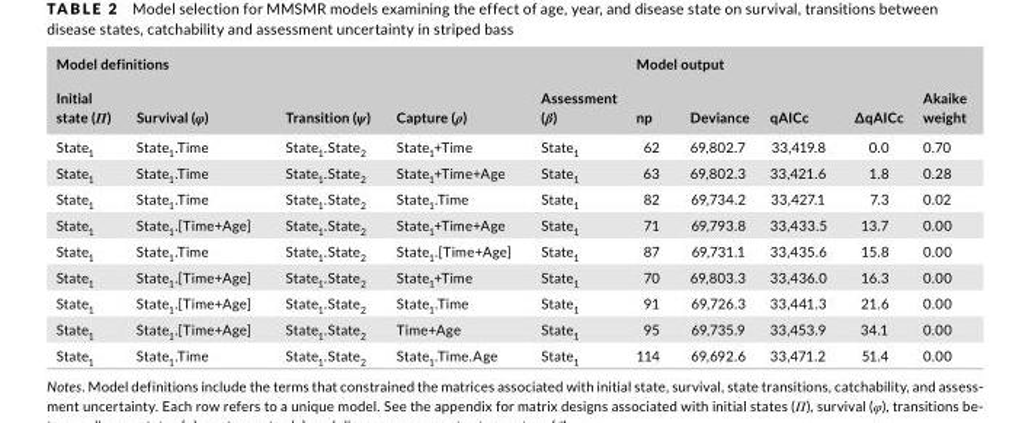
<table><thead><tr><td colspan="5">Model definitions</td><td colspan="5">Model output</td></tr><tr><td>Initial state (Π)</td><td>Survival (φ)</td><td>Transition (ψ)</td><td>Capture (ρ)</td><td>Assessment (β)</td><td>np</td><td>Deviance</td><td>qAICc</td><td>∆qAICc</td><td>Akaike weight</td></tr></thead><tbody><tr><td>State<sub>1</sub></td><td>State<sub>1</sub>.Time</td><td>State<sub>1</sub>.State<sub>2</sub></td><td>State<sub>1</sub>+Time</td><td>State<sub>1</sub></td><td>62</td><td>69,802.7</td><td>33,419.8</td><td>0.0</td><td>0.70</td></tr><tr><td>State<sub>1</sub></td><td>State<sub>1</sub>.Time</td><td>State<sub>1</sub>.State<sub>2</sub></td><td>State<sub>1</sub>+Time+Age</td><td>State<sub>1</sub></td><td>63</td><td>69,802.3</td><td>33,421.6</td><td>1.8</td><td>0.28</td></tr><tr><td>State<sub>1</sub></td><td>State<sub>1</sub>.Time</td><td>State<sub>1</sub>.State<sub>2</sub></td><td>State<sub>1</sub>.Time</td><td>State<sub>1</sub></td><td>82</td><td>69,734.2</td><td>33,427.1</td><td>7.3</td><td>0.02</td></tr><tr><td>State<sub>1</sub></td><td>State<sub>1</sub>.[Time+Age]</td><td>State<sub>1</sub>.State<sub>2</sub></td><td>State<sub>1</sub>+Time+Age</td><td>State<sub>1</sub></td><td>71</td><td>69,793.8</td><td>33,433.5</td><td>13.7</td><td>0.00</td></tr><tr><td>State<sub>1</sub></td><td>State<sub>1</sub>.Time</td><td>State<sub>1</sub>.State<sub>2</sub></td><td>State<sub>1</sub>.[Time+Age]</td><td>State<sub>1</sub></td><td>87</td><td>69,731.1</td><td>33,435.6</td><td>15.8</td><td>0.00</td></tr><tr><td>State<sub>1</sub></td><td>State<sub>1</sub>.[Time+Age]</td><td>State<sub>1</sub>.State<sub>2</sub></td><td>State<sub>1</sub>+Time</td><td>State<sub>1</sub></td><td>70</td><td>69,803.3</td><td>33,436.0</td><td>16.3</td><td>0.00</td></tr><tr><td>State<sub>1</sub></td><td>State<sub>1</sub>.[Time+Age]</td><td>State<sub>1</sub>.State<sub>2</sub></td><td>State<sub>1</sub>.Time</td><td>State<sub>1</sub></td><td>91</td><td>69,726.3</td><td>33,441.3</td><td>21.6</td><td>0.00</td></tr><tr><td>State<sub>1</sub></td><td>State<sub>1</sub>.[Time+Age]</td><td>State<sub>1</sub>.State<sub>2</sub></td><td>Time+Age</td><td>State<sub>1</sub></td><td>95</td><td>69,735.9</td><td>33,453.9</td><td>34.1</td><td>0.00</td></tr><tr><td>State<sub>1</sub></td><td>State<sub>1</sub>.Time</td><td>State<sub>1</sub>.State<sub>2</sub></td><td>State<sub>1</sub>.Time.Age</td><td>State<sub>1</sub></td><td>114</td><td>69,692.6</td><td>33,471.2</td><td>51.4</td><td>0.00</td></tr></tbody></table>